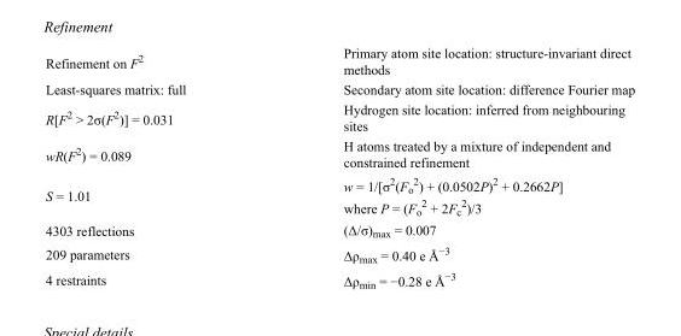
<table><tbody><tr><td>Refinement on F<sup>2</sup></td><td>Primary atom site location: structure-invariant direct methods</td></tr><tr><td>Least-squares matrix: full</td><td>Secondary atom site location: difference Fourier map</td></tr><tr><td>R[F<sup>2</sup> &gt; 2σ(F<sup>2</sup>)] = 0.031</td><td>Hydrogen site location: inferred from neighbouring sites</td></tr><tr><td>wR(F<sup>2</sup>) = 0.089</td><td>H atoms treated by a mixture of independent and constrained refinement</td></tr><tr><td>S = 1.01</td><td>w = 1/[σ<sup>2</sup>(F<sub>o</sub> <sup>2</sup>) + (0.0502P)<sup>2</sup> + 0.2662P] where P = (F<sub>o</sub> <sup>2</sup> + 2F<sub>c</sub> <sup>2</sup>)/3</td></tr><tr><td>4303 reflections</td><td>(Δ/σ)<sub>max</sub> = 0.007</td></tr><tr><td>209 parameters</td><td>Δρ<sub>max</sub> = 0.40 e Å<sup>−3</sup></td></tr><tr><td>4 restraints</td><td>Δρ<sub>min</sub> = −0.28 e Å<sup>−3</sup></td></tr></tbody></table>